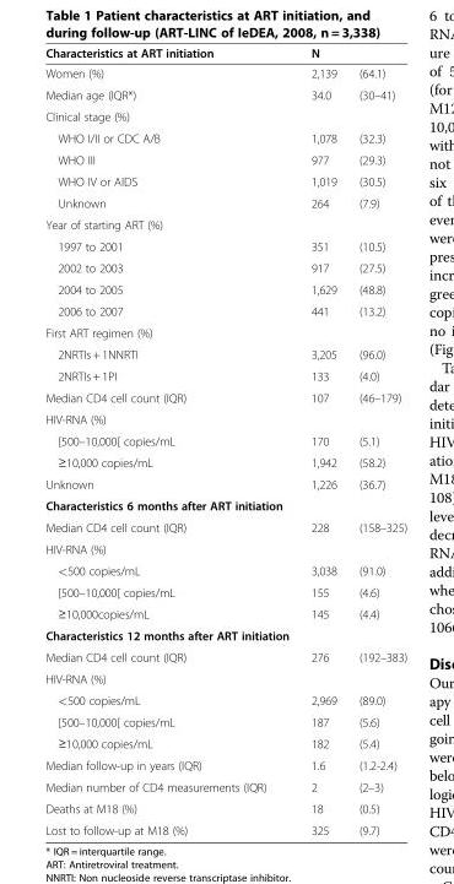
<table><thead><tr><td>Characteristics at ART initiation</td><td>N</td><td></td></tr></thead><tbody><tr><td>Women (%)</td><td>2,139</td><td>(64.1)</td></tr><tr><td>Median age (IQR*)</td><td>34.0</td><td>(30–41)</td></tr><tr><td colspan="3">Clinical stage (%)</td></tr><tr><td>WHO I/II or CDC A/B</td><td>1,078</td><td>(32.3)</td></tr><tr><td>WHO III</td><td>977</td><td>(29.3)</td></tr><tr><td>WHO IV or AIDS</td><td>1,019</td><td>(30.5)</td></tr><tr><td>Unknown</td><td>264</td><td>(7.9)</td></tr><tr><td colspan="3">Year of starting ART (%)</td></tr><tr><td>1997 to 2001</td><td>351</td><td>(10.5)</td></tr><tr><td>2002 to 2003</td><td>917</td><td>(27.5)</td></tr><tr><td>2004 to 2005</td><td>1,629</td><td>(48.8)</td></tr><tr><td>2006 to 2007</td><td>441</td><td>(13.2)</td></tr><tr><td colspan="3">First ART regimen (%)</td></tr><tr><td>2NRTIs + 1NNRTI</td><td>3,205</td><td>(96.0)</td></tr><tr><td>2NRTIs + 1PI</td><td>133</td><td>(4.0)</td></tr><tr><td>Median CD4 cell count (IQR)</td><td>107</td><td>(46–179)</td></tr><tr><td colspan="3">HIV-RNA (%)</td></tr><tr><td>[500–10,000[ copies/mL</td><td>170</td><td>(5.1)</td></tr><tr><td>≥10,000 copies/mL</td><td>1,942</td><td>(58.2)</td></tr><tr><td>Unknown</td><td>1,226</td><td>(36.7)</td></tr><tr><td colspan="3">Characteristics 6 months after ART initiation</td></tr><tr><td>Median CD4 cell count (IQR)</td><td>228</td><td>(158–325)</td></tr><tr><td colspan="3">HIV-RNA (%)</td></tr><tr><td>&lt;500 copies/mL</td><td>3,038</td><td>(91.0)</td></tr><tr><td>[500–10,000[ copies/mL</td><td>155</td><td>(4.6)</td></tr><tr><td>≥10,000copies/mL</td><td>145</td><td>(4.4)</td></tr><tr><td colspan="3">Characteristics 12 months after ART initiation</td></tr><tr><td>Median CD4 cell count (IQR)</td><td>276</td><td>(192–383)</td></tr><tr><td colspan="3">HIV-RNA (%)</td></tr><tr><td>&lt;500 copies/mL</td><td>2,969</td><td>(89.0)</td></tr><tr><td>[500–10,000[ copies/mL</td><td>187</td><td>(5.6)</td></tr><tr><td>≥10,000 copies/mL</td><td>182</td><td>(5.4)</td></tr><tr><td>Median follow-up in years (IQR)</td><td>1.6</td><td>(1.2-2.4)</td></tr><tr><td>Median number of CD4 measurements (IQR)</td><td>2</td><td>(2–3)</td></tr><tr><td>Deaths at M18 (%)</td><td>18</td><td>(0.5)</td></tr><tr><td>Lost to follow-up at M18 (%)</td><td>325</td><td>(9.7)</td></tr></tbody></table>